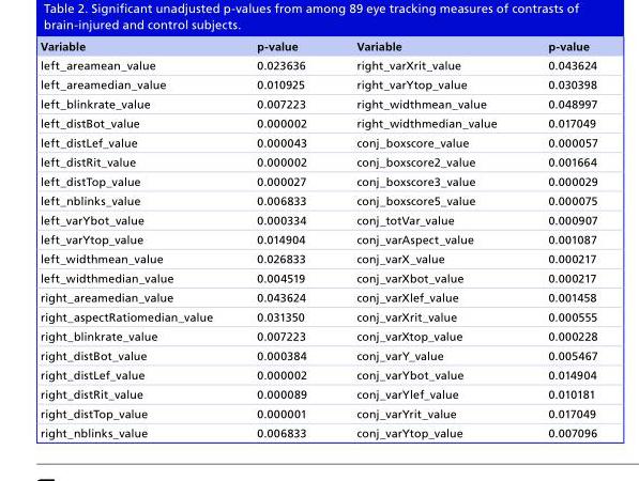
<table><thead><tr><td>Variable</td><td>p-value</td><td>Variable</td><td>p-value</td></tr></thead><tbody><tr><td>left_areamean_value</td><td>0.023636</td><td>right_varXrit_value</td><td>0.043624</td></tr><tr><td>left_areamedian_value</td><td>0.010925</td><td>right_varYtop_value</td><td>0.030398</td></tr><tr><td>left_blinkrate_value</td><td>0.007223</td><td>right_widthmean_value</td><td>0.048997</td></tr><tr><td>left_distBot_value</td><td>0.000002</td><td>right_widthmedian_value</td><td>0.017049</td></tr><tr><td>left_distLef_value</td><td>0.000043</td><td>conj_boxscore_value</td><td>0.000057</td></tr><tr><td>left_distRit_value</td><td>0.000002</td><td>conj_boxscore2_value</td><td>0.001664</td></tr><tr><td>left_distTop_value</td><td>0.000027</td><td>conj_boxscore3_value</td><td>0.000029</td></tr><tr><td>left_nblinks_value</td><td>0.006833</td><td>conj_boxscore5_value</td><td>0.000075</td></tr><tr><td>left_varYbot_value</td><td>0.000334</td><td>conj_totVar_value</td><td>0.000907</td></tr><tr><td>left_varYtop_value</td><td>0.014904</td><td>conj_varAspect_value</td><td>0.001087</td></tr><tr><td>left_widthmean_value</td><td>0.026833</td><td>conj_varX_value</td><td>0.000217</td></tr><tr><td>left_widthmedian_value</td><td>0.004519</td><td>conj_varXbot_value</td><td>0.000217</td></tr><tr><td>right_areamedian_value</td><td>0.043624</td><td>conj_varXlef_value</td><td>0.001458</td></tr><tr><td>right_aspectRatiomedian_value</td><td>0.031350</td><td>conj_varXrit_value</td><td>0.000555</td></tr><tr><td>right_blinkrate_value</td><td>0.007223</td><td>conj_varXtop_value</td><td>0.000228</td></tr><tr><td>right_distBot_value</td><td>0.000384</td><td>conj_varY_value</td><td>0.005467</td></tr><tr><td>right_distLef_value</td><td>0.000002</td><td>conj_varYbot_value</td><td>0.014904</td></tr><tr><td>right_distRit_value</td><td>0.000089</td><td>conj_varYlef_value</td><td>0.010181</td></tr><tr><td>right_distTop_value</td><td>0.000001</td><td>conj_varYrit_value</td><td>0.017049</td></tr><tr><td>right_nblinks_value</td><td>0.006833</td><td>conj_varYtop_value</td><td>0.007096</td></tr></tbody></table>